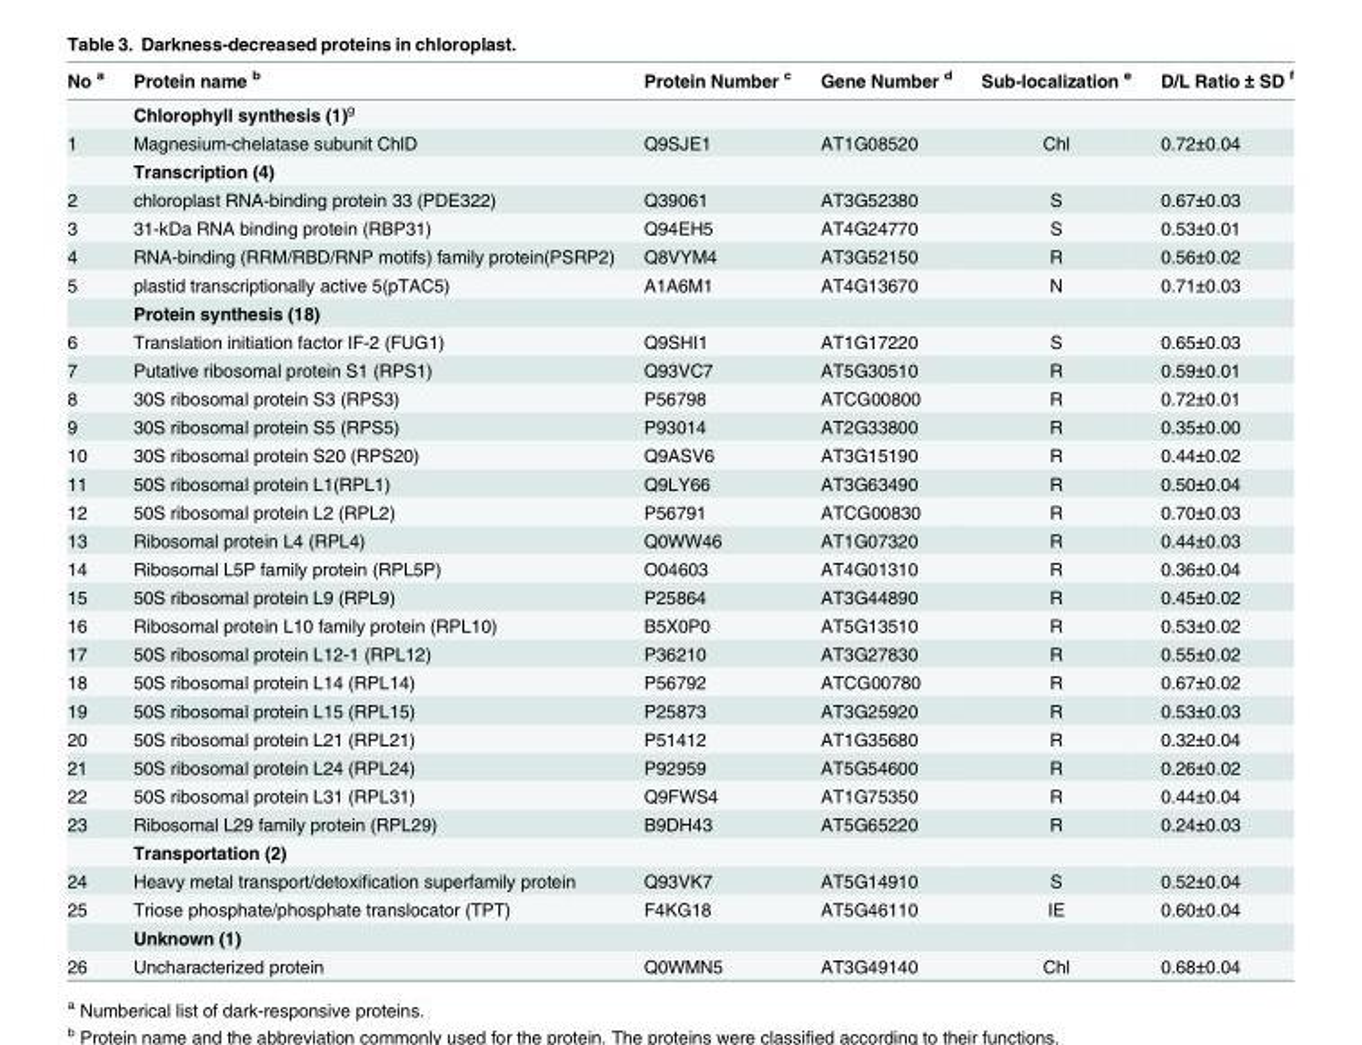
<table><thead><tr><td>No <sup>a</sup></td><td>Protein name <sup>b</sup></td><td>Protein Number <sup>c</sup></td><td>Gene Number <sup>d</sup></td><td>Sub-localization <sup>e</sup></td><td>D/L Ratio ± SD <sup>f</sup></td></tr></thead><tbody><tr><td></td><td>Chlorophyll synthesis (1)<sup>g</sup></td><td></td><td></td><td></td><td></td></tr><tr><td rowspan="2">1</td><td>Magnesium-chelatase subunit ChlD</td><td>Q9SJE1</td><td>AT1G08520</td><td>Chl</td><td>0.72±0.04</td></tr><tr><td>Transcription (4)</td><td></td><td></td><td></td><td></td></tr><tr><td>2</td><td>chloroplast RNA-binding protein 33 (PDE322)</td><td>Q39061</td><td>AT3G52380</td><td>S</td><td>0.67±0.03</td></tr><tr><td>3</td><td>31-kDa RNA binding protein (RBP31)</td><td>Q94EH5</td><td>AT4G24770</td><td>S</td><td>0.53±0.01</td></tr><tr><td>4</td><td>RNA-binding (RRM/RBD/RNP motifs) family protein(PSRP2)</td><td>Q8VYM4</td><td>AT3G52150</td><td>R</td><td>0.56±0.02</td></tr><tr><td rowspan="2">5</td><td>plastid transcriptionally active 5(pTAC5)</td><td>A1A6M1</td><td>AT4G13670</td><td>N</td><td>0.71±0.03</td></tr><tr><td>Protein synthesis (18)</td><td></td><td></td><td></td><td></td></tr><tr><td>6</td><td>Translation initiation factor IF-2 (FUG1)</td><td>Q9SHI1</td><td>AT1G17220</td><td>S</td><td>0.65±0.03</td></tr><tr><td>7</td><td>Putative ribosomal protein S1 (RPS1)</td><td>Q93VC7</td><td>AT5G30510</td><td>R</td><td>0.59±0.01</td></tr><tr><td>8</td><td>30S ribosomal protein S3 (RPS3)</td><td>P56798</td><td>ATCG00800</td><td>R</td><td>0.72±0.01</td></tr><tr><td>9</td><td>30S ribosomal protein S5 (RPS5)</td><td>P93014</td><td>AT2G33800</td><td>R</td><td>0.35±0.00</td></tr><tr><td>10</td><td>30S ribosomal protein S20 (RPS20)</td><td>Q9ASV6</td><td>AT3G15190</td><td>R</td><td>0.44±0.02</td></tr><tr><td>11</td><td>50S ribosomal protein L1(RPL1)</td><td>Q9LY66</td><td>AT3G63490</td><td>R</td><td>0.50±0.04</td></tr><tr><td>12</td><td>50S ribosomal protein L2 (RPL2)</td><td>P56791</td><td>ATCG00830</td><td>R</td><td>0.70±0.03</td></tr><tr><td>13</td><td>Ribosomal protein L4 (RPL4)</td><td>Q0WW46</td><td>AT1G07320</td><td>R</td><td>0.44±0.03</td></tr><tr><td>14</td><td>Ribosomal L5P family protein (RPL5P)</td><td>O04603</td><td>AT4G01310</td><td>R</td><td>0.36±0.04</td></tr><tr><td>15</td><td>50S ribosomal protein L9 (RPL9)</td><td>P25864</td><td>AT3G44890</td><td>R</td><td>0.45±0.02</td></tr><tr><td>16</td><td>Ribosomal protein L10 family protein (RPL10)</td><td>B5X0P0</td><td>AT5G13510</td><td>R</td><td>0.53±0.02</td></tr><tr><td>17</td><td>50S ribosomal protein L12-1 (RPL12)</td><td>P36210</td><td>AT3G27830</td><td>R</td><td>0.55±0.02</td></tr><tr><td>18</td><td>50S ribosomal protein L14 (RPL14)</td><td>P56792</td><td>ATCG00780</td><td>R</td><td>0.67±0.02</td></tr><tr><td>19</td><td>50S ribosomal protein L15 (RPL15)</td><td>P25873</td><td>AT3G25920</td><td>R</td><td>0.53±0.03</td></tr><tr><td>20</td><td>50S ribosomal protein L21 (RPL21)</td><td>P51412</td><td>AT1G35680</td><td>R</td><td>0.32±0.04</td></tr><tr><td>21</td><td>50S ribosomal protein L24 (RPL24)</td><td>P92959</td><td>AT5G54600</td><td>R</td><td>0.26±0.02</td></tr><tr><td>22</td><td>50S ribosomal protein L31 (RPL31)</td><td>Q9FWS4</td><td>AT1G75350</td><td>R</td><td>0.44±0.04</td></tr><tr><td rowspan="2">23</td><td>Ribosomal L29 family protein (RPL29)</td><td>B9DH43</td><td>AT5G65220</td><td>R</td><td>0.24±0.03</td></tr><tr><td>Transportation (2)</td><td></td><td></td><td></td><td></td></tr><tr><td>24</td><td>Heavy metal transport/detoxification superfamily protein</td><td>Q93VK7</td><td>AT5G14910</td><td>S</td><td>0.52±0.04</td></tr><tr><td rowspan="2">25</td><td>Triose phosphate/phosphate translocator (TPT)</td><td>F4KG18</td><td>AT5G46110</td><td>IE</td><td>0.60±0.04</td></tr><tr><td>Unknown (1)</td><td></td><td></td><td></td><td></td></tr><tr><td>26</td><td>Uncharacterized protein</td><td>Q0WMN5</td><td>AT3G49140</td><td>Chl</td><td>0.68±0.04</td></tr></tbody></table>